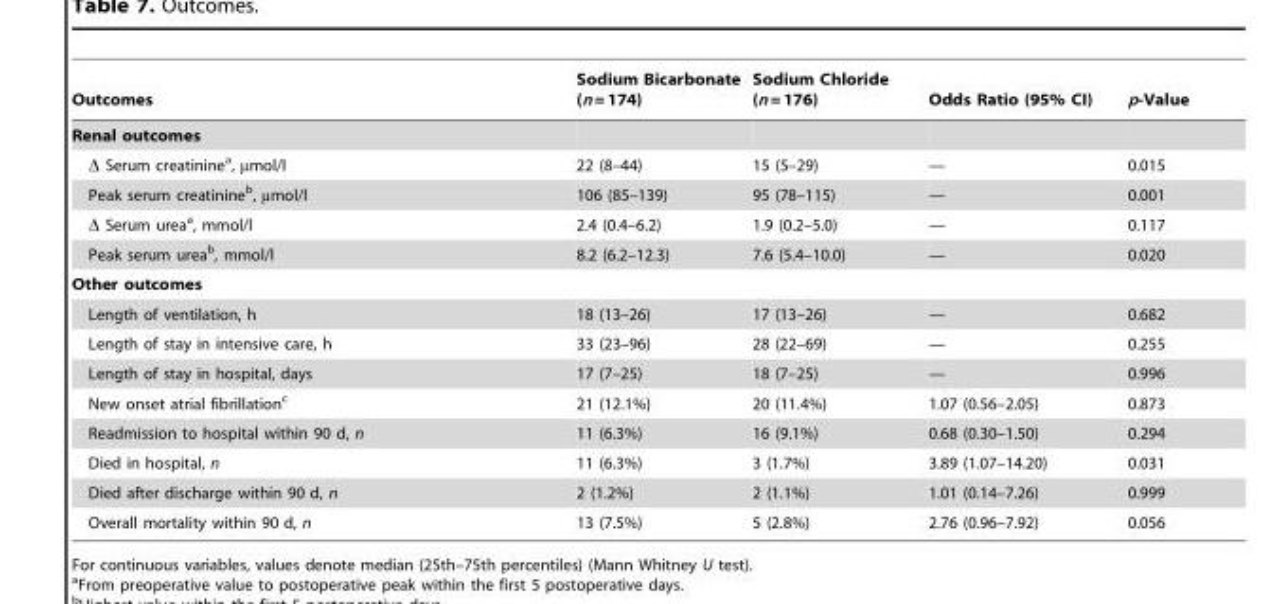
<table><thead><tr><td>Outcomes</td><td>Sodium Bicarbonate (n = 174)</td><td>Sodium Chloride (n = 176)</td><td>Odds Ratio (95% CI)</td><td>p-Value</td></tr></thead><tbody><tr><td colspan="5">Renal outcomes</td></tr><tr><td>Δ Serum creatinine<sup>a</sup>, µmol/l</td><td>22 (8–44)</td><td>15 (5–29)</td><td>—</td><td>0.015</td></tr><tr><td>Peak serum creatinine<sup>b</sup>, µmol/l</td><td>106 (85–139)</td><td>95 (78–115)</td><td>—</td><td>0.001</td></tr><tr><td>Δ Serum urea<sup>a</sup>, mmol/l</td><td>2.4 (0.4–6.2)</td><td>1.9 (0.2–5.0)</td><td>—</td><td>0.117</td></tr><tr><td>Peak serum urea<sup>b</sup>, mmol/l</td><td>8.2 (6.2–12.3)</td><td>7.6 (5.4–10.0)</td><td>—</td><td>0.020</td></tr><tr><td colspan="5">Other outcomes</td></tr><tr><td>Length of ventilation, h</td><td>18 (13–26)</td><td>17 (13–26)</td><td>—</td><td>0.682</td></tr><tr><td>Length of stay in intensive care, h</td><td>33 (23–96)</td><td>28 (22–69)</td><td>—</td><td>0.255</td></tr><tr><td>Length of stay in hospital, days</td><td>17 (7–25)</td><td>18 (7–25)</td><td>—</td><td>0.996</td></tr><tr><td>New onset atrial fibrillation<sup>c</sup></td><td>21 (12.1%)</td><td>20 (11.4%)</td><td>1.07 (0.56–2.05)</td><td>0.873</td></tr><tr><td>Readmission to hospital within 90 d, n</td><td>11 (6.3%)</td><td>16 (9.1%)</td><td>0.68 (0.30–1.50)</td><td>0.294</td></tr><tr><td>Died in hospital, n</td><td>11 (6.3%)</td><td>3 (1.7%)</td><td>3.89 (1.07–14.20)</td><td>0.031</td></tr><tr><td>Died after discharge within 90 d, n</td><td>2 (1.2%)</td><td>2 (1.1%)</td><td>1.01 (0.14–7.26)</td><td>0.999</td></tr><tr><td>Overall mortality within 90 d, n</td><td>13 (7.5%)</td><td>5 (2.8%)</td><td>2.76 (0.96–7.92)</td><td>0.056</td></tr></tbody></table>